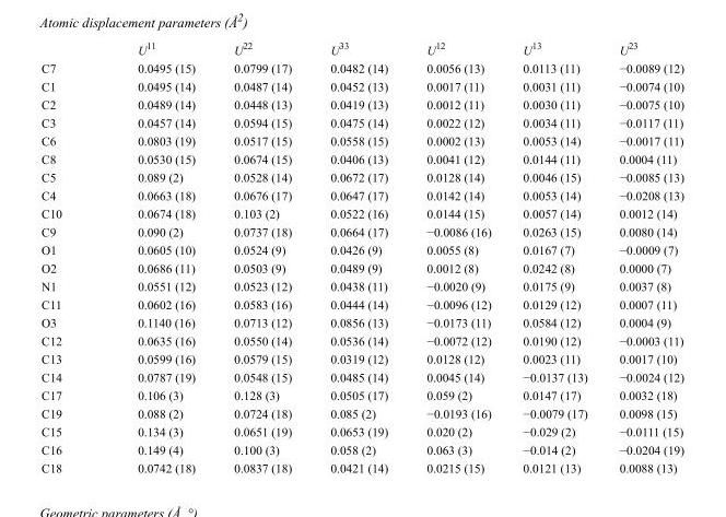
<table><thead><tr><td></td><td>U<sup>11</sup></td><td>U<sup>22</sup></td><td>U<sup>33</sup></td><td>U<sup>12</sup></td><td>U<sup>13</sup></td><td>U<sup>23</sup></td></tr></thead><tbody><tr><td>C7</td><td>0.0495 (15)</td><td>0.0799 (17)</td><td>0.0482 (14)</td><td>0.0056 (13)</td><td>0.0113 (11)</td><td>−0.0089 (12)</td></tr><tr><td>C1</td><td>0.0495 (14)</td><td>0.0487 (14)</td><td>0.0452 (13)</td><td>0.0017 (11)</td><td>0.0031 (11)</td><td>−0.0074 (10)</td></tr><tr><td>C2</td><td>0.0489 (14)</td><td>0.0448 (13)</td><td>0.0419 (13)</td><td>0.0012 (11)</td><td>0.0030 (11)</td><td>−0.0075 (10)</td></tr><tr><td>C3</td><td>0.0457 (14)</td><td>0.0594 (15)</td><td>0.0475 (14)</td><td>0.0022 (12)</td><td>0.0034 (11)</td><td>−0.0117 (11)</td></tr><tr><td>C6</td><td>0.0803 (19)</td><td>0.0517 (15)</td><td>0.0558 (15)</td><td>0.0002 (13)</td><td>0.0053 (14)</td><td>−0.0017 (11)</td></tr><tr><td>C8</td><td>0.0530 (15)</td><td>0.0674 (15)</td><td>0.0406 (13)</td><td>0.0041 (12)</td><td>0.0144 (11)</td><td>0.0004 (11)</td></tr><tr><td>C5</td><td>0.089 (2)</td><td>0.0528 (14)</td><td>0.0672 (17)</td><td>0.0128 (14)</td><td>0.0046 (15)</td><td>−0.0085 (13)</td></tr><tr><td>C4</td><td>0.0663 (18)</td><td>0.0676 (17)</td><td>0.0647 (17)</td><td>0.0142 (14)</td><td>0.0053 (14)</td><td>−0.0208 (13)</td></tr><tr><td>C10</td><td>0.0674 (18)</td><td>0.103 (2)</td><td>0.0522 (16)</td><td>0.0144 (15)</td><td>0.0057 (14)</td><td>0.0012 (14)</td></tr><tr><td>C9</td><td>0.090 (2)</td><td>0.0737 (18)</td><td>0.0664 (17)</td><td>−0.0086 (16)</td><td>0.0263 (15)</td><td>0.0080 (14)</td></tr><tr><td>O1</td><td>0.0605 (10)</td><td>0.0524 (9)</td><td>0.0426 (9)</td><td>0.0055 (8)</td><td>0.0167 (7)</td><td>−0.0009 (7)</td></tr><tr><td>O2</td><td>0.0686 (11)</td><td>0.0503 (9)</td><td>0.0489 (9)</td><td>0.0012 (8)</td><td>0.0242 (8)</td><td>0.0000 (7)</td></tr><tr><td>N1</td><td>0.0551 (12)</td><td>0.0523 (12)</td><td>0.0438 (11)</td><td>−0.0020 (9)</td><td>0.0175 (9)</td><td>0.0037 (8)</td></tr><tr><td>C11</td><td>0.0602 (16)</td><td>0.0583 (16)</td><td>0.0444 (14)</td><td>−0.0096 (12)</td><td>0.0129 (12)</td><td>0.0007 (11)</td></tr><tr><td>O3</td><td>0.1140 (16)</td><td>0.0713 (12)</td><td>0.0856 (13)</td><td>−0.0173 (11)</td><td>0.0584 (12)</td><td>0.0004 (9)</td></tr><tr><td>C12</td><td>0.0635 (16)</td><td>0.0550 (14)</td><td>0.0536 (14)</td><td>−0.0072 (12)</td><td>0.0190 (12)</td><td>−0.0003 (11)</td></tr><tr><td>C13</td><td>0.0599 (16)</td><td>0.0579 (15)</td><td>0.0319 (12)</td><td>0.0128 (12)</td><td>0.0023 (11)</td><td>0.0017 (10)</td></tr><tr><td>C14</td><td>0.0787 (19)</td><td>0.0548 (15)</td><td>0.0485 (14)</td><td>0.0045 (14)</td><td>−0.0137 (13)</td><td>−0.0024 (12)</td></tr><tr><td>C17</td><td>0.106 (3)</td><td>0.128 (3)</td><td>0.0505 (17)</td><td>0.059 (2)</td><td>0.0147 (17)</td><td>0.0032 (18)</td></tr><tr><td>C19</td><td>0.088 (2)</td><td>0.0724 (18)</td><td>0.085 (2)</td><td>−0.0193 (16)</td><td>−0.0079 (17)</td><td>0.0098 (15)</td></tr><tr><td>C15</td><td>0.134 (3)</td><td>0.0651 (19)</td><td>0.0653 (19)</td><td>0.020 (2)</td><td>−0.029 (2)</td><td>−0.0111 (15)</td></tr><tr><td>C16</td><td>0.149 (4)</td><td>0.100 (3)</td><td>0.058 (2)</td><td>0.063 (3)</td><td>−0.014 (2)</td><td>−0.0204 (19)</td></tr><tr><td>C18</td><td>0.0742 (18)</td><td>0.0837 (18)</td><td>0.0421 (14)</td><td>0.0215 (15)</td><td>0.0121 (13)</td><td>0.0088 (13)</td></tr></tbody></table>